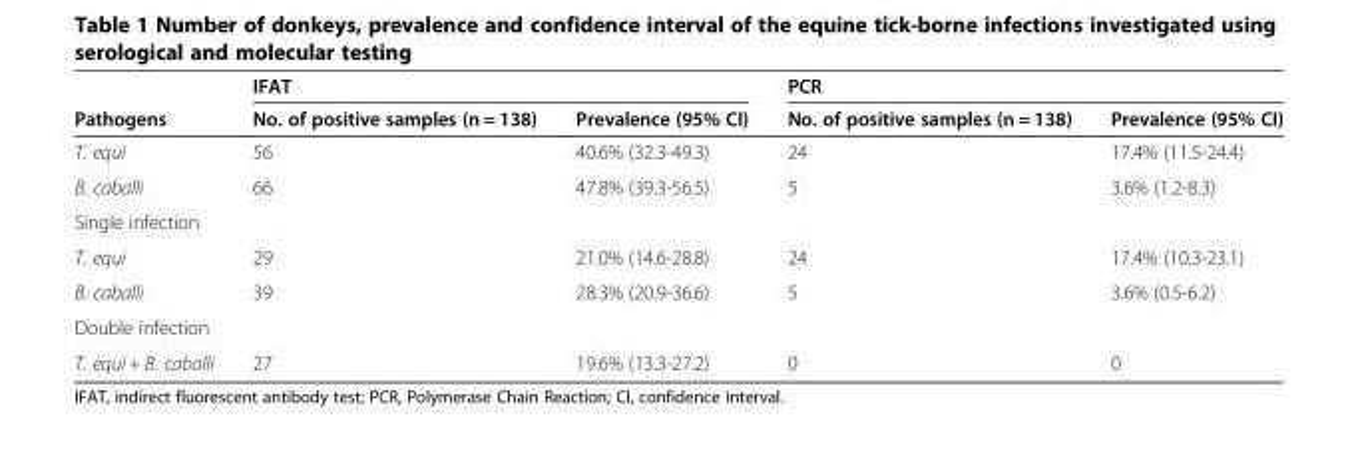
<table><thead><tr><td rowspan="2">Pathogens</td><td colspan="2">IFAT</td><td colspan="2">PCR</td></tr><tr><td>No. of positive samples (n = 138)</td><td>Prevalence (95% CI)</td><td>No. of positive samples (n = 138)</td><td>Prevalence (95% CI)</td></tr></thead><tbody><tr><td>T. equi</td><td>56</td><td>40.6% (32.3-49.3)</td><td>24</td><td>17.4% (11.5-24.4)</td></tr><tr><td>B. caballi</td><td>66</td><td>47.8% (39.3-56.5)</td><td>5</td><td>3.6% (1.2-8.3)</td></tr><tr><td colspan="5">Single infection</td></tr><tr><td>T. equi</td><td>29</td><td>21.0% (14.6-28.8)</td><td>24</td><td>17.4% (10.3-23.1)</td></tr><tr><td>B. caballi</td><td>39</td><td>28.3% (20.9-36.6)</td><td>5</td><td>3.6% (0.5-6.2)</td></tr><tr><td colspan="5">Double infection</td></tr><tr><td>T. equi + B. caballi</td><td>27</td><td>19.6% (13.3-27.2)</td><td>0</td><td>0</td></tr></tbody></table>